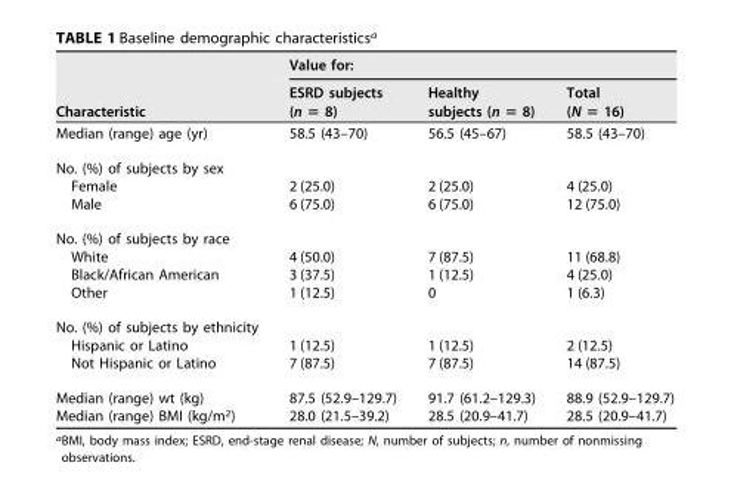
<table><thead><tr><td rowspan="2">Characteristic</td><td colspan="3">Value for:</td></tr><tr><td>ESRD subjects (n = 8)</td><td>Healthy subjects (n = 8)</td><td>Total (N = 16)</td></tr></thead><tbody><tr><td>Median (range) age (yr)</td><td>58.5 (43–70)</td><td>56.5 (45–67)</td><td>58.5 (43–70)</td></tr><tr><td colspan="4">No. (%) of subjects by sex</td></tr><tr><td>Female</td><td>2 (25.0)</td><td>2 (25.0)</td><td>4 (25.0)</td></tr><tr><td>Male</td><td>6 (75.0)</td><td>6 (75.0)</td><td>12 (75.0)</td></tr><tr><td colspan="4">No. (%) of subjects by race</td></tr><tr><td>White</td><td>4 (50.0)</td><td>7 (87.5)</td><td>11 (68.8)</td></tr><tr><td>Black/African American</td><td>3 (37.5)</td><td>1 (12.5)</td><td>4 (25.0)</td></tr><tr><td>Other</td><td>1 (12.5)</td><td>0</td><td>1 (6.3)</td></tr><tr><td colspan="4">No. (%) of subjects by ethnicity</td></tr><tr><td>Hispanic or Latino</td><td>1 (12.5)</td><td>1 (12.5)</td><td>2 (12.5)</td></tr><tr><td>Not Hispanic or Latino</td><td>7 (87.5)</td><td>7 (87.5)</td><td>14 (87.5)</td></tr><tr><td>Median (range) wt (kg)</td><td>87.5 (52.9–129.7)</td><td>91.7 (61.2–129.3)</td><td>88.9 (52.9–129.7)</td></tr><tr><td>Median (range) BMI (kg/m<sup>2</sup>)</td><td>28.0 (21.5–39.2)</td><td>28.5 (20.9–41.7)</td><td>28.5 (20.9–41.7)</td></tr></tbody></table>